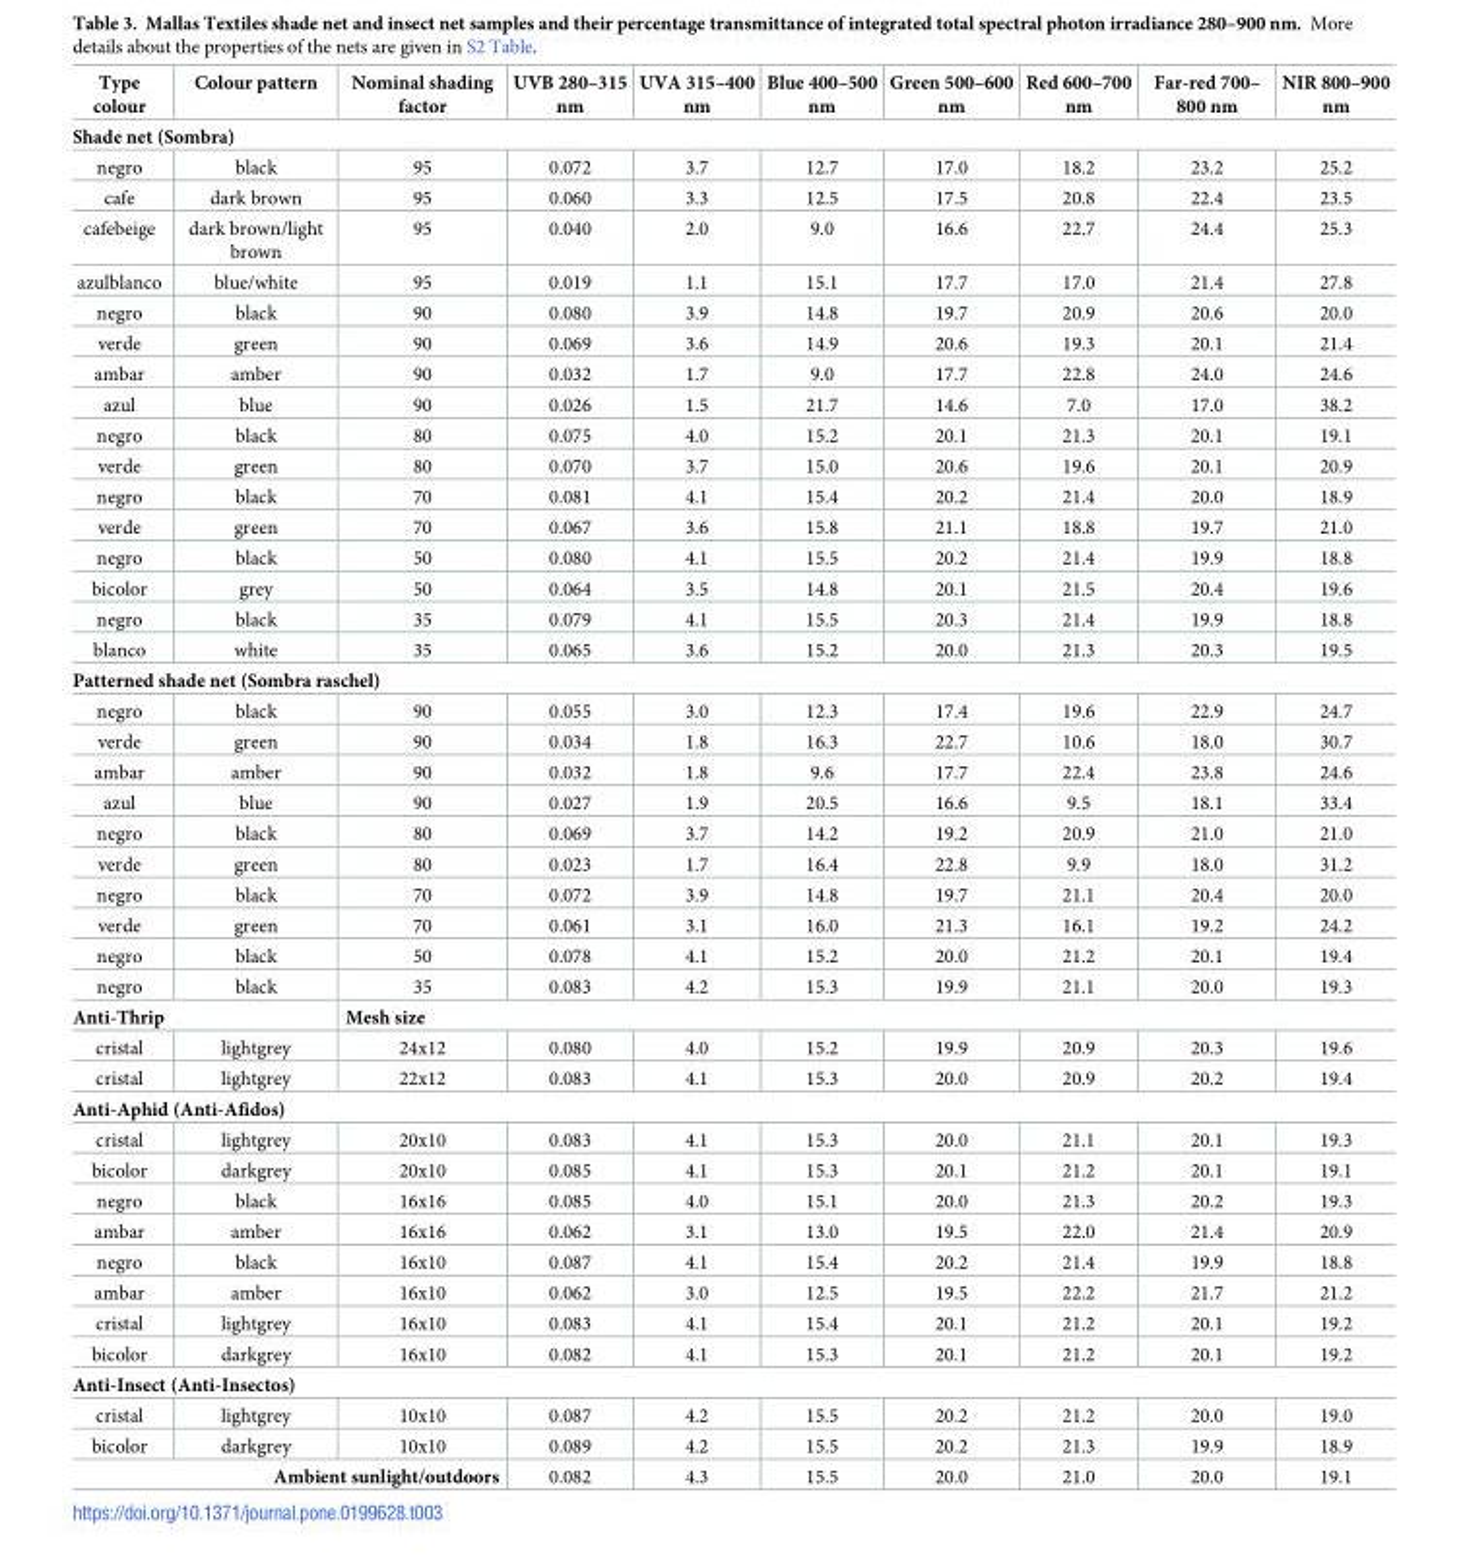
<table><thead><tr><td>Type colour</td><td>Colour pattern</td><td>Nominal shading factor</td><td>UVB 280–315 nm</td><td>UVA 315–400 nm</td><td>Blue 400–500 nm</td><td>Green 500–600 nm</td><td>Red 600–700 nm</td><td>Far-red 700– 800 nm</td><td>NIR 800–900 nm</td></tr></thead><tbody><tr><td colspan="10">Shade net (Sombra)</td></tr><tr><td>negro</td><td>black</td><td>95</td><td>0.072</td><td>3.7</td><td>12.7</td><td>17.0</td><td>18.2</td><td>23.2</td><td>25.2</td></tr><tr><td>cafe</td><td>dark brown</td><td>95</td><td>0.060</td><td>3.3</td><td>12.5</td><td>17.5</td><td>20.8</td><td>22.4</td><td>23.5</td></tr><tr><td>cafebeige</td><td>dark brown/light brown</td><td>95</td><td>0.040</td><td>2.0</td><td>9.0</td><td>16.6</td><td>22.7</td><td>24.4</td><td>25.3</td></tr><tr><td>azulblanco</td><td>blue/white</td><td>95</td><td>0.019</td><td>1.1</td><td>15.1</td><td>17.7</td><td>17.0</td><td>21.4</td><td>27.8</td></tr><tr><td>negro</td><td>black</td><td>90</td><td>0.080</td><td>3.9</td><td>14.8</td><td>19.7</td><td>20.9</td><td>20.6</td><td>20.0</td></tr><tr><td>verde</td><td>green</td><td>90</td><td>0.069</td><td>3.6</td><td>14.9</td><td>20.6</td><td>19.3</td><td>20.1</td><td>21.4</td></tr><tr><td>ambar</td><td>amber</td><td>90</td><td>0.032</td><td>1.7</td><td>9.0</td><td>17.7</td><td>22.8</td><td>24.0</td><td>24.6</td></tr><tr><td>azul</td><td>blue</td><td>90</td><td>0.026</td><td>1.5</td><td>21.7</td><td>14.6</td><td>7.0</td><td>17.0</td><td>38.2</td></tr><tr><td>negro</td><td>black</td><td>80</td><td>0.075</td><td>4.0</td><td>15.2</td><td>20.1</td><td>21.3</td><td>20.1</td><td>19.1</td></tr><tr><td>verde</td><td>green</td><td>80</td><td>0.070</td><td>3.7</td><td>15.0</td><td>20.6</td><td>19.6</td><td>20.1</td><td>20.9</td></tr><tr><td>negro</td><td>black</td><td>70</td><td>0.081</td><td>4.1</td><td>15.4</td><td>20.2</td><td>21.4</td><td>20.0</td><td>18.9</td></tr><tr><td>verde</td><td>green</td><td>70</td><td>0.067</td><td>3.6</td><td>15.8</td><td>21.1</td><td>18.8</td><td>19.7</td><td>21.0</td></tr><tr><td>negro</td><td>black</td><td>50</td><td>0.080</td><td>4.1</td><td>15.5</td><td>20.2</td><td>21.4</td><td>19.9</td><td>18.8</td></tr><tr><td>bicolor</td><td>grey</td><td>50</td><td>0.064</td><td>3.5</td><td>14.8</td><td>20.1</td><td>21.5</td><td>20.4</td><td>19.6</td></tr><tr><td>negro</td><td>black</td><td>35</td><td>0.079</td><td>4.1</td><td>15.5</td><td>20.3</td><td>21.4</td><td>19.9</td><td>18.8</td></tr><tr><td>blanco</td><td>white</td><td>35</td><td>0.065</td><td>3.6</td><td>15.2</td><td>20.0</td><td>21.3</td><td>20.3</td><td>19.5</td></tr><tr><td colspan="10">Patterned shade net (Sombra raschel)</td></tr><tr><td>negro</td><td>black</td><td>90</td><td>0.055</td><td>3.0</td><td>12.3</td><td>17.4</td><td>19.6</td><td>22.9</td><td>24.7</td></tr><tr><td>verde</td><td>green</td><td>90</td><td>0.034</td><td>1.8</td><td>16.3</td><td>22.7</td><td>10.6</td><td>18.0</td><td>30.7</td></tr><tr><td>ambar</td><td>amber</td><td>90</td><td>0.032</td><td>1.8</td><td>9.6</td><td>17.7</td><td>22.4</td><td>23.8</td><td>24.6</td></tr><tr><td>azul</td><td>blue</td><td>90</td><td>0.027</td><td>1.9</td><td>20.5</td><td>16.6</td><td>9.5</td><td>18.1</td><td>33.4</td></tr><tr><td>negro</td><td>black</td><td>80</td><td>0.069</td><td>3.7</td><td>14.2</td><td>19.2</td><td>20.9</td><td>21.0</td><td>21.0</td></tr><tr><td>verde</td><td>green</td><td>80</td><td>0.023</td><td>1.7</td><td>16.4</td><td>22.8</td><td>9.9</td><td>18.0</td><td>31.2</td></tr><tr><td>negro</td><td>black</td><td>70</td><td>0.072</td><td>3.9</td><td>14.8</td><td>19.7</td><td>21.1</td><td>20.4</td><td>20.0</td></tr><tr><td>verde</td><td>green</td><td>70</td><td>0.061</td><td>3.1</td><td>16.0</td><td>21.3</td><td>16.1</td><td>19.2</td><td>24.2</td></tr><tr><td>negro</td><td>black</td><td>50</td><td>0.078</td><td>4.1</td><td>15.2</td><td>20.0</td><td>21.2</td><td>20.1</td><td>19.4</td></tr><tr><td>negro</td><td>black</td><td>35</td><td>0.083</td><td>4.2</td><td>15.3</td><td>19.9</td><td>21.1</td><td>20.0</td><td>19.3</td></tr><tr><td colspan="2">Anti-Thrip</td><td colspan="8">Mesh size</td></tr><tr><td>cristal</td><td>lightgrey</td><td>24x12</td><td>0.080</td><td>4.0</td><td>15.2</td><td>19.9</td><td>20.9</td><td>20.3</td><td>19.6</td></tr><tr><td>cristal</td><td>lightgrey</td><td>22x12</td><td>0.083</td><td>4.1</td><td>15.3</td><td>20.0</td><td>20.9</td><td>20.2</td><td>19.4</td></tr><tr><td colspan="10">Anti-Aphid (Anti-Afidos)</td></tr><tr><td>cristal</td><td>lightgrey</td><td>20x10</td><td>0.083</td><td>4.1</td><td>15.3</td><td>20.0</td><td>21.1</td><td>20.1</td><td>19.3</td></tr><tr><td>bicolor</td><td>darkgrey</td><td>20x10</td><td>0.085</td><td>4.1</td><td>15.3</td><td>20.1</td><td>21.2</td><td>20.1</td><td>19.1</td></tr><tr><td>negro</td><td>black</td><td>16x16</td><td>0.085</td><td>4.0</td><td>15.1</td><td>20.0</td><td>21.3</td><td>20.2</td><td>19.3</td></tr><tr><td>ambar</td><td>amber</td><td>16x16</td><td>0.062</td><td>3.1</td><td>13.0</td><td>19.5</td><td>22.0</td><td>21.4</td><td>20.9</td></tr><tr><td>negro</td><td>black</td><td>16x10</td><td>0.087</td><td>4.1</td><td>15.4</td><td>20.2</td><td>21.4</td><td>19.9</td><td>18.8</td></tr><tr><td>ambar</td><td>amber</td><td>16x10</td><td>0.062</td><td>3.0</td><td>12.5</td><td>19.5</td><td>22.2</td><td>21.7</td><td>21.2</td></tr><tr><td>cristal</td><td>lightgrey</td><td>16x10</td><td>0.083</td><td>4.1</td><td>15.4</td><td>20.1</td><td>21.2</td><td>20.1</td><td>19.2</td></tr><tr><td>bicolor</td><td>darkgrey</td><td>16x10</td><td>0.082</td><td>4.1</td><td>15.3</td><td>20.1</td><td>21.2</td><td>20.1</td><td>19.2</td></tr><tr><td colspan="10">Anti-Insect (Anti-Insectos)</td></tr><tr><td>cristal</td><td>lightgrey</td><td>10x10</td><td>0.087</td><td>4.2</td><td>15.5</td><td>20.2</td><td>21.2</td><td>20.0</td><td>19.0</td></tr><tr><td>bicolor</td><td>darkgrey</td><td>10x10</td><td>0.089</td><td>4.2</td><td>15.5</td><td>20.2</td><td>21.3</td><td>19.9</td><td>18.9</td></tr><tr><td colspan="3">Ambient sunlight/outdoors</td><td>0.082</td><td>4.3</td><td>15.5</td><td>20.0</td><td>21.0</td><td>20.0</td><td>19.1</td></tr></tbody></table>